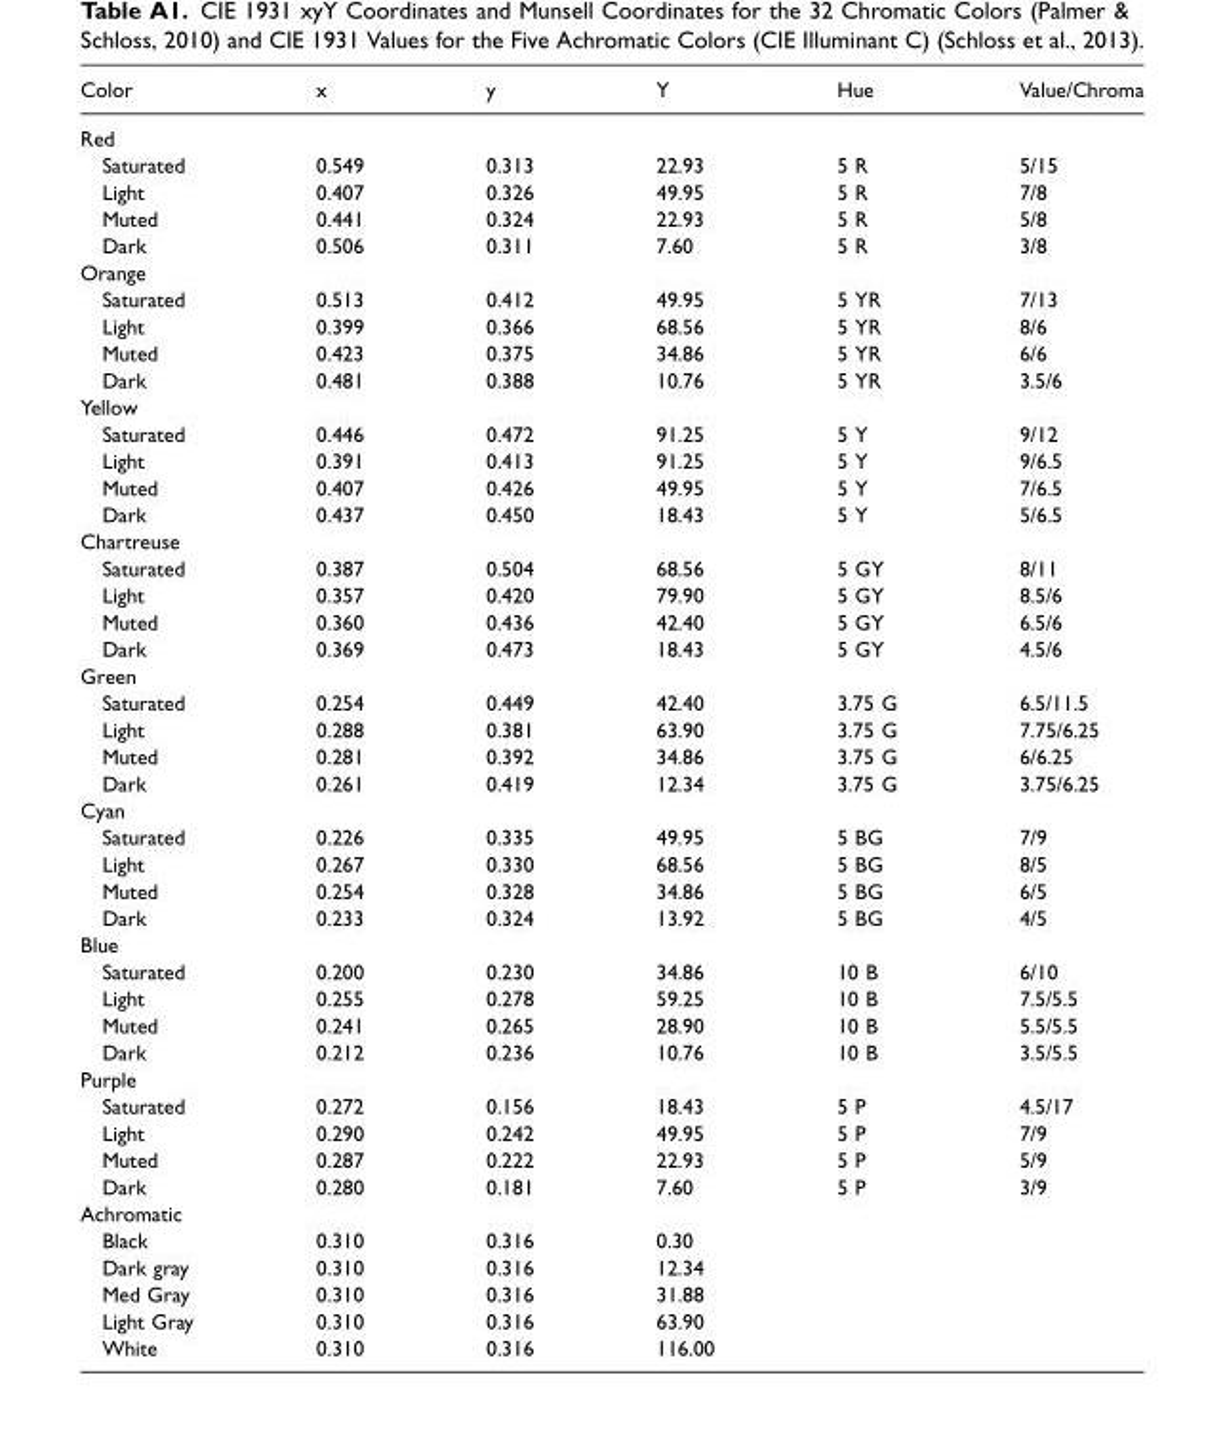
<table><thead><tr><td>Color</td><td>x</td><td>y</td><td>Y</td><td>Hue</td><td>Value/Chroma</td></tr></thead><tbody><tr><td colspan="6">Red</td></tr><tr><td>Saturated</td><td>0.549</td><td>0.313</td><td>22.93</td><td>5 R</td><td>5/15</td></tr><tr><td>Light</td><td>0.407</td><td>0.326</td><td>49.95</td><td>5 R</td><td>7/8</td></tr><tr><td>Muted</td><td>0.441</td><td>0.324</td><td>22.93</td><td>5 R</td><td>5/8</td></tr><tr><td>Dark</td><td>0.506</td><td>0.311</td><td>7.60</td><td>5 R</td><td>3/8</td></tr><tr><td colspan="6">Orange</td></tr><tr><td>Saturated</td><td>0.513</td><td>0.412</td><td>49.95</td><td>5 YR</td><td>7/13</td></tr><tr><td>Light</td><td>0.399</td><td>0.366</td><td>68.56</td><td>5 YR</td><td>8/6</td></tr><tr><td>Muted</td><td>0.423</td><td>0.375</td><td>34.86</td><td>5 YR</td><td>6/6</td></tr><tr><td>Dark</td><td>0.481</td><td>0.388</td><td>10.76</td><td>5 YR</td><td>3.5/6</td></tr><tr><td colspan="6">Yellow</td></tr><tr><td>Saturated</td><td>0.446</td><td>0.472</td><td>91.25</td><td>5 Y</td><td>9/12</td></tr><tr><td>Light</td><td>0.391</td><td>0.413</td><td>91.25</td><td>5 Y</td><td>9/6.5</td></tr><tr><td>Muted</td><td>0.407</td><td>0.426</td><td>49.95</td><td>5 Y</td><td>7/6.5</td></tr><tr><td>Dark</td><td>0.437</td><td>0.450</td><td>18.43</td><td>5 Y</td><td>5/6.5</td></tr><tr><td colspan="6">Chartreuse</td></tr><tr><td>Saturated</td><td>0.387</td><td>0.504</td><td>68.56</td><td>5 GY</td><td>8/11</td></tr><tr><td>Light</td><td>0.357</td><td>0.420</td><td>79.90</td><td>5 GY</td><td>8.5/6</td></tr><tr><td>Muted</td><td>0.360</td><td>0.436</td><td>42.40</td><td>5 GY</td><td>6.5/6</td></tr><tr><td>Dark</td><td>0.369</td><td>0.473</td><td>18.43</td><td>5 GY</td><td>4.5/6</td></tr><tr><td colspan="6">Green</td></tr><tr><td>Saturated</td><td>0.254</td><td>0.449</td><td>42.40</td><td>3.75 G</td><td>6.5/11.5</td></tr><tr><td>Light</td><td>0.288</td><td>0.381</td><td>63.90</td><td>3.75 G</td><td>7.75/6.25</td></tr><tr><td>Muted</td><td>0.281</td><td>0.392</td><td>34.86</td><td>3.75 G</td><td>6/6.25</td></tr><tr><td>Dark</td><td>0.261</td><td>0.419</td><td>12.34</td><td>3.75 G</td><td>3.75/6.25</td></tr><tr><td colspan="6">Cyan</td></tr><tr><td>Saturated</td><td>0.226</td><td>0.335</td><td>49.95</td><td>5 BG</td><td>7/9</td></tr><tr><td>Light</td><td>0.267</td><td>0.330</td><td>68.56</td><td>5 BG</td><td>8/5</td></tr><tr><td>Muted</td><td>0.254</td><td>0.328</td><td>34.86</td><td>5 BG</td><td>6/5</td></tr><tr><td>Dark</td><td>0.233</td><td>0.324</td><td>13.92</td><td>5 BG</td><td>4/5</td></tr><tr><td colspan="6">Blue</td></tr><tr><td>Saturated</td><td>0.200</td><td>0.230</td><td>34.86</td><td>10 B</td><td>6/10</td></tr><tr><td>Light</td><td>0.255</td><td>0.278</td><td>59.25</td><td>10 B</td><td>7.5/5.5</td></tr><tr><td>Muted</td><td>0.241</td><td>0.265</td><td>28.90</td><td>10 B</td><td>5.5/5.5</td></tr><tr><td>Dark</td><td>0.212</td><td>0.236</td><td>10.76</td><td>10 B</td><td>3.5/5.5</td></tr><tr><td colspan="6">Purple</td></tr><tr><td>Saturated</td><td>0.272</td><td>0.156</td><td>18.43</td><td>5 P</td><td>4.5/17</td></tr><tr><td>Light</td><td>0.290</td><td>0.242</td><td>49.95</td><td>5 P</td><td>7/9</td></tr><tr><td>Muted</td><td>0.287</td><td>0.222</td><td>22.93</td><td>5 P</td><td>5/9</td></tr><tr><td>Dark</td><td>0.280</td><td>0.181</td><td>7.60</td><td>5 P</td><td>3/9</td></tr><tr><td colspan="6">Achromatic</td></tr><tr><td>Black</td><td>0.310</td><td>0.316</td><td>0.30</td><td></td><td></td></tr><tr><td>Dark gray</td><td>0.310</td><td>0.316</td><td>12.34</td><td></td><td></td></tr><tr><td>Med Gray</td><td>0.310</td><td>0.316</td><td>31.88</td><td></td><td></td></tr><tr><td>Light Gray</td><td>0.310</td><td>0.316</td><td>63.90</td><td></td><td></td></tr><tr><td>White</td><td>0.310</td><td>0.316</td><td>116.00</td><td></td><td></td></tr></tbody></table>